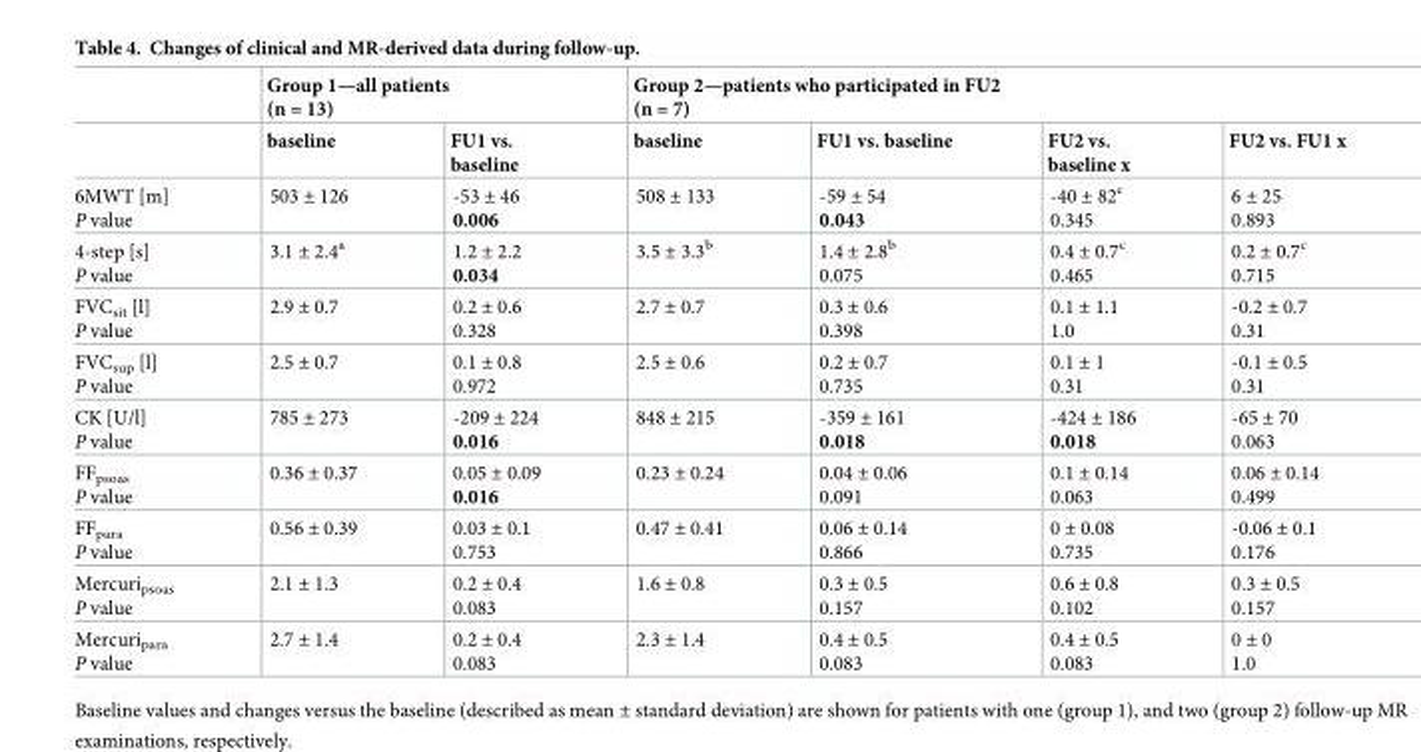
<table><thead><tr><td rowspan="2"></td><td colspan="2">Group 1—all patients (n = 13)</td><td colspan="4">Group 2—patients who participated in FU2 (n = 7)</td></tr><tr><td>baseline</td><td>FU1 vs. baseline</td><td>baseline</td><td>FU1 vs. baseline</td><td>FU2 vs. baseline x</td><td>FU2 vs. FU1 x</td></tr></thead><tbody><tr><td>6MWT [m] P value</td><td>503 ± 126</td><td>-53 ± 46 0.006</td><td>508 ± 133</td><td>-59 ± 54 0.043</td><td>-40 ± 82<sup>c</sup> 0.345</td><td>6 ± 25 0.893</td></tr><tr><td>4-step [s] P value</td><td>3.1 ± 2.4<sup>a</sup></td><td>1.2 ± 2.2 0.034</td><td>3.5 ± 3.3<sup>b</sup></td><td>1.4 ± 2.8<sup>b</sup> 0.075</td><td>0.4 ± 0.7<sup>c</sup> 0.465</td><td>0.2 ± 0.7<sup>c</sup> 0.715</td></tr><tr><td>FVC<sub>sit</sub> [l] P value</td><td>2.9 ± 0.7</td><td>0.2 ± 0.6 0.328</td><td>2.7 ± 0.7</td><td>0.3 ± 0.6 0.398</td><td>0.1 ± 1.1 1.0</td><td>-0.2 ± 0.7 0.31</td></tr><tr><td>FVC<sub>sup</sub> [l] P value</td><td>2.5 ± 0.7</td><td>0.1 ± 0.8 0.972</td><td>2.5 ± 0.6</td><td>0.2 ± 0.7 0.735</td><td>0.1 ± 1 0.31</td><td>-0.1 ± 0.5 0.31</td></tr><tr><td>CK [U/l] P value</td><td>785 ± 273</td><td>-209 ± 224 0.016</td><td>848 ± 215</td><td>-359 ± 161 0.018</td><td>-424 ± 186 0.018</td><td>-65 ± 70 0.063</td></tr><tr><td>FF<sub>psoas</sub> P value</td><td>0.36 ± 0.37</td><td>0.05 ± 0.09 0.016</td><td>0.23 ± 0.24</td><td>0.04 ± 0.06 0.091</td><td>0.1 ± 0.14 0.063</td><td>0.06 ± 0.14 0.499</td></tr><tr><td>FF<sub>para</sub> P value</td><td>0.56 ± 0.39</td><td>0.03 ± 0.1 0.753</td><td>0.47 ± 0.41</td><td>0.06 ± 0.14 0.866</td><td>0 ± 0.08 0.735</td><td>-0.06 ± 0.1 0.176</td></tr><tr><td>Mercuri<sub>psoas</sub> P value</td><td>2.1 ± 1.3</td><td>0.2 ± 0.4 0.083</td><td>1.6 ± 0.8</td><td>0.3 ± 0.5 0.157</td><td>0.6 ± 0.8 0.102</td><td>0.3 ± 0.5 0.157</td></tr><tr><td>Mercuri<sub>para</sub> P value</td><td>2.7 ± 1.4</td><td>0.2 ± 0.4 0.083</td><td>2.3 ± 1.4</td><td>0.4 ± 0.5 0.083</td><td>0.4 ± 0.5 0.083</td><td>0 ± 0 1.0</td></tr></tbody></table>